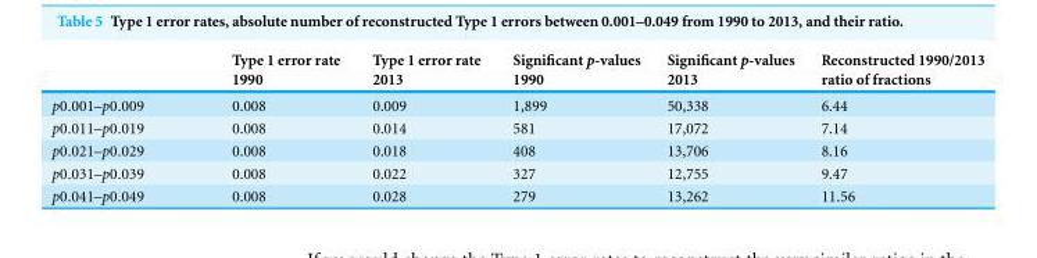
<table><thead><tr><td></td><td>Type 1 error rate 1990</td><td>Type 1 error rate 2013</td><td>Significant p-values 1990</td><td>Significant p-values 2013</td><td>Reconstructed 1990/2013 ratio of fractions</td></tr></thead><tbody><tr><td>p0.001–p0.009</td><td>0.008</td><td>0.009</td><td>1,899</td><td>50,338</td><td>6.44</td></tr><tr><td>p0.011–p0.019</td><td>0.008</td><td>0.014</td><td>581</td><td>17,072</td><td>7.14</td></tr><tr><td>p0.021–p0.029</td><td>0.008</td><td>0.018</td><td>408</td><td>13,706</td><td>8.16</td></tr><tr><td>p0.031–p0.039</td><td>0.008</td><td>0.022</td><td>327</td><td>12,755</td><td>9.47</td></tr><tr><td>p0.041–p0.049</td><td>0.008</td><td>0.028</td><td>279</td><td>13,262</td><td>11.56</td></tr></tbody></table>